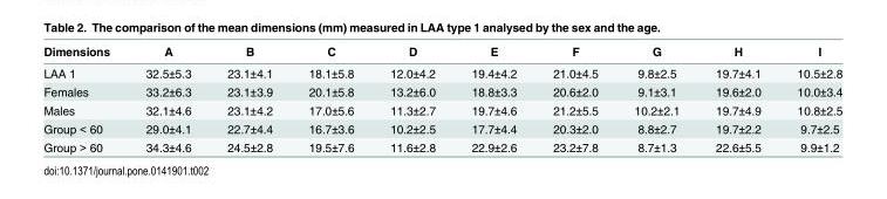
<table><thead><tr><td>Dimensions</td><td>A</td><td>B</td><td>C</td><td>D</td><td>E</td><td>F</td><td>G</td><td>H</td><td>I</td></tr></thead><tbody><tr><td>LAA 1</td><td>32.5±5.3</td><td>23.1±4.1</td><td>18.1±5.8</td><td>12.0±4.2</td><td>19.4±4.2</td><td>21.0±4.5</td><td>9.8±2.5</td><td>19.7±4.1</td><td>10.5±2.8</td></tr><tr><td>Females</td><td>33.2±6.3</td><td>23.1±3.9</td><td>20.1±5.8</td><td>13.2±6.0</td><td>18.8±3.3</td><td>20.6±2.0</td><td>9.1±3.1</td><td>19.6±2.0</td><td>10.0±3.4</td></tr><tr><td>Males</td><td>32.1±4.6</td><td>23.1±4.2</td><td>17.0±5.6</td><td>11.3±2.7</td><td>19.7±4.6</td><td>21.2±5.5</td><td>10.2±2.1</td><td>19.7±4.9</td><td>10.8±2.5</td></tr><tr><td>Group &lt; 60</td><td>29.0±4.1</td><td>22.7±4.4</td><td>16.7±3.6</td><td>10.2±2.5</td><td>17.7±4.4</td><td>20.3±2.0</td><td>8.8±2.7</td><td>19.7±2.2</td><td>9.7±2.5</td></tr><tr><td>Group &gt; 60</td><td>34.3±4.6</td><td>24.5±2.8</td><td>19.5±7.6</td><td>11.6±2.8</td><td>22.9±2.6</td><td>23.2±7.8</td><td>8.7±1.3</td><td>22.6±5.5</td><td>9.9±1.2</td></tr></tbody></table>